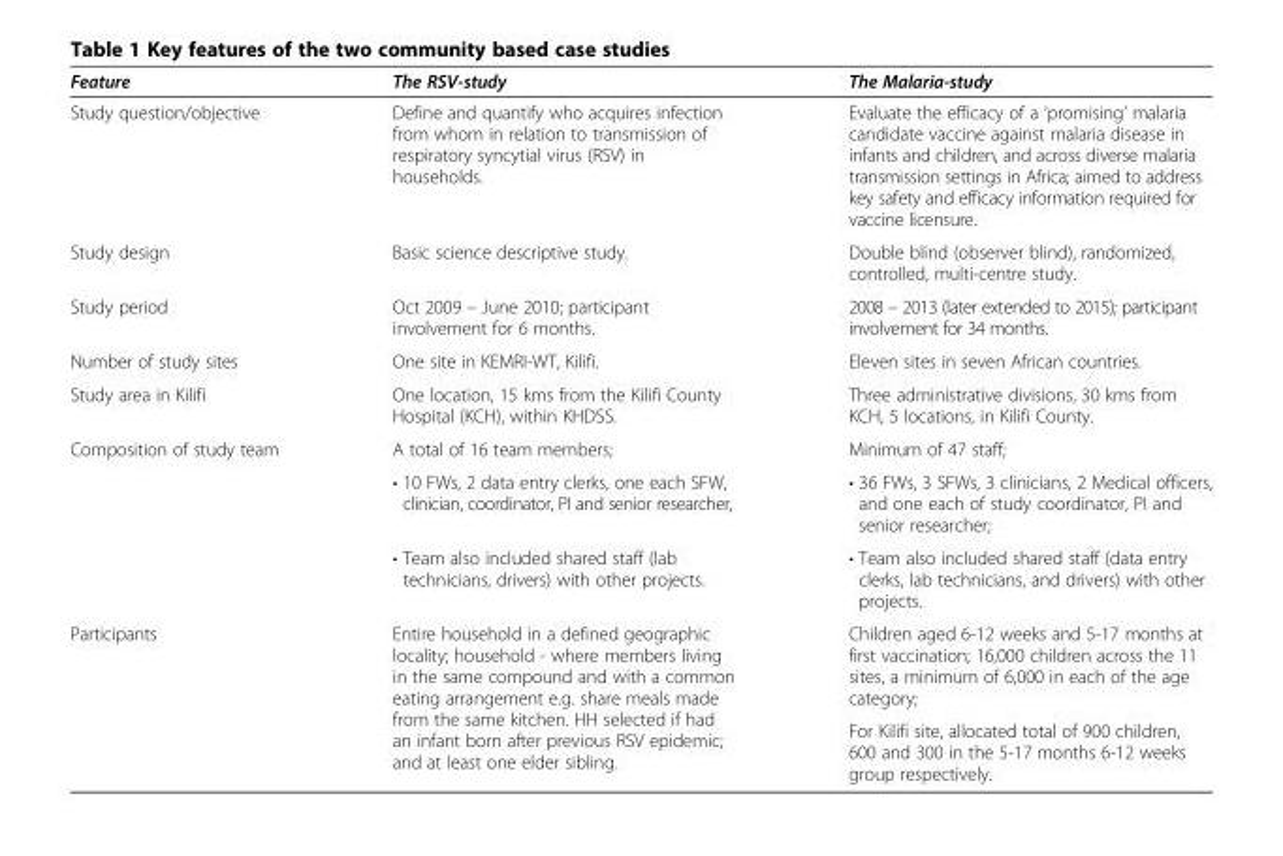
<table><thead><tr><td>Feature</td><td>The RSV-study</td><td>The Malaria-study</td></tr></thead><tbody><tr><td>Study question/objective</td><td>Define and quantify who acquires infection from whom in relation to transmission of respiratory syncytial virus (RSV) in households.</td><td>Evaluate the efficacy of a ‘promising’ malaria candidate vaccine against malaria disease in infants and children, and across diverse malaria transmission settings in Africa; aimed to address key safety and efficacy information required for vaccine licensure.</td></tr><tr><td>Study design</td><td>Basic science descriptive study.</td><td>Double blind (observer blind), randomized, controlled, multi-centre study.</td></tr><tr><td>Study period</td><td>Oct 2009 – June 2010; participant involvement for 6 months.</td><td>2008 – 2013 (later extended to 2015); participant involvement for 34 months.</td></tr><tr><td>Number of study sites</td><td>One site in KEMRI-WT, Kilifi.</td><td>Eleven sites in seven African countries.</td></tr><tr><td>Study area in Kilifi</td><td>One location, 15 kms from the Kilifi County Hospital (KCH), within KHDSS.</td><td>Three administrative divisions, 30 kms from KCH, 5 locations, in Kilifi County.</td></tr><tr><td rowspan="3">Composition of study team</td><td>A total of 16 team members;</td><td>Minimum of 47 staff;</td></tr><tr><td>• 10 FWs, 2 data entry clerks, one each SFW, clinician, coordinator, PI and senior researcher,</td><td>• 36 FWs, 3 SFWs, 3 clinicians, 2 Medical officers, and one each of study coordinator, PI and senior researcher;</td></tr><tr><td>• Team also included shared staff (lab technicians, drivers) with other projects.</td><td>• Team also included shared staff (data entry clerks, lab technicians, and drivers) with other projects.</td></tr><tr><td rowspan="2">Participants</td><td rowspan="2">Entire household in a defined geographic locality; household - where members living in the same compound and with a common eating arrangement e.g. share meals made from the same kitchen. HH selected if had an infant born after previous RSV epidemic; and at least one elder sibling.</td><td>Children aged 6-12 weeks and 5-17 months at first vaccination; 16,000 children across the 11 sites, a minimum of 6,000 in each of the age category;</td></tr><tr><td>For Kilifi site, allocated total of 900 children, 600 and 300 in the 5-17 months 6-12 weeks group respectively.</td></tr></tbody></table>